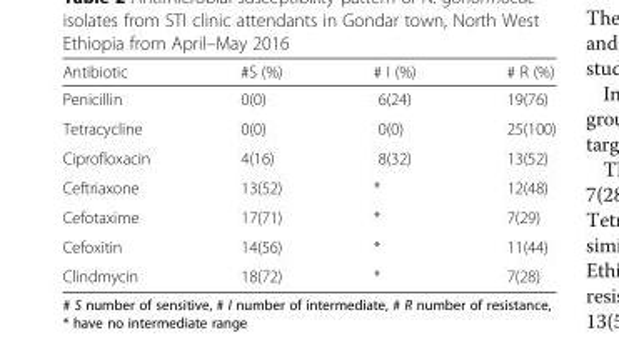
<table><thead><tr><td>Antibiotic</td><td>#S (%)</td><td># I (%)</td><td># R (%)</td></tr></thead><tbody><tr><td>Penicillin</td><td>0(0)</td><td>6(24)</td><td>19(76)</td></tr><tr><td>Tetracycline</td><td>0(0)</td><td>0(0)</td><td>25(100)</td></tr><tr><td>Ciprofloxacin</td><td>4(16)</td><td>8(32)</td><td>13(52)</td></tr><tr><td>Ceftriaxone</td><td>13(52)</td><td>*</td><td>12(48)</td></tr><tr><td>Cefotaxime</td><td>17(71)</td><td>*</td><td>7(29)</td></tr><tr><td>Cefoxitin</td><td>14(56)</td><td>*</td><td>11(44)</td></tr><tr><td>Clindmycin</td><td>18(72)</td><td>*</td><td>7(28)</td></tr></tbody></table>